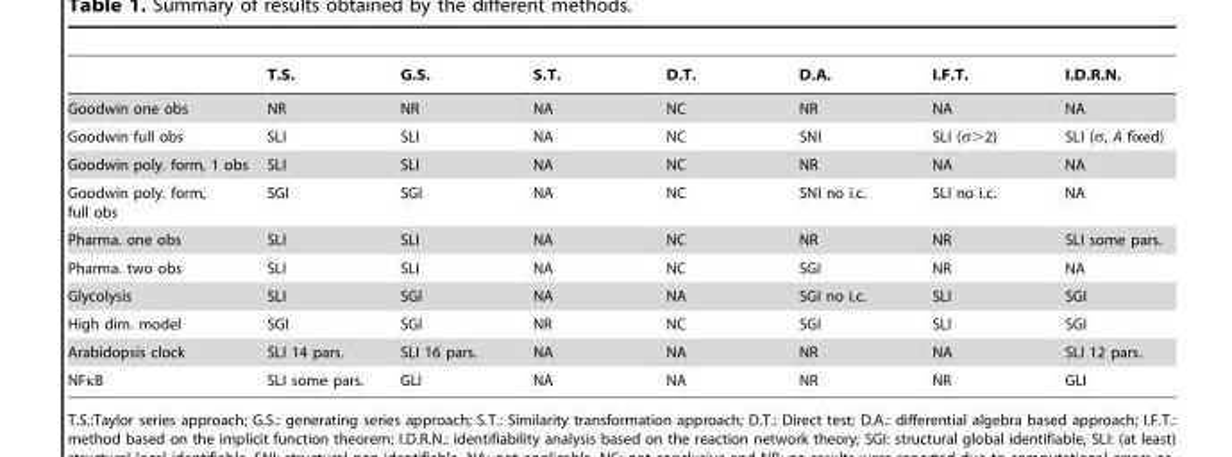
<table><thead><tr><td></td><td>T.S.</td><td>G.S.</td><td>S.T.</td><td>D.T.</td><td>D.A.</td><td>I.F.T.</td><td>I.D.R.N.</td></tr></thead><tbody><tr><td>Goodwin one obs</td><td>NR</td><td>NR</td><td>NA</td><td>NC</td><td>NR</td><td>NA</td><td>NA</td></tr><tr><td>Goodwin full obs</td><td>SLI</td><td>SLI</td><td>NA</td><td>NC</td><td>SNI</td><td>SLI (σ&gt;2)</td><td>SLI (σ, A fixed)</td></tr><tr><td>Goodwin poly. form, 1 obs</td><td>SLI</td><td>SLI</td><td>NA</td><td>NC</td><td>NR</td><td>NA</td><td>NA</td></tr><tr><td>Goodwin poly. form, full obs</td><td>SGI</td><td>SGI</td><td>NA</td><td>NC</td><td>SNI no i.c.</td><td>SLI no i.c.</td><td>NA</td></tr><tr><td>Pharma. one obs</td><td>SLI</td><td>SLI</td><td>NA</td><td>NC</td><td>NR</td><td>NR</td><td>SLI some pars.</td></tr><tr><td>Pharma. two obs</td><td>SLI</td><td>SLI</td><td>NA</td><td>NC</td><td>SGI</td><td>NR</td><td>NA</td></tr><tr><td>Glycolysis</td><td>SLI</td><td>SGI</td><td>NA</td><td>NA</td><td>SGI no i.c.</td><td>SLI</td><td>SGI</td></tr><tr><td>High dim. model</td><td>SGI</td><td>SGI</td><td>NR</td><td>NC</td><td>SGI</td><td>SLI</td><td>SGI</td></tr><tr><td>Arabidopsis clock</td><td>SLI 14 pars.</td><td>SLI 16 pars.</td><td>NA</td><td>NA</td><td>NR</td><td>NA</td><td>SLI 12 pars.</td></tr><tr><td>NFκB</td><td>SLI some pars.</td><td>GLI</td><td>NA</td><td>NA</td><td>NR</td><td>NR</td><td>GLI</td></tr></tbody></table>